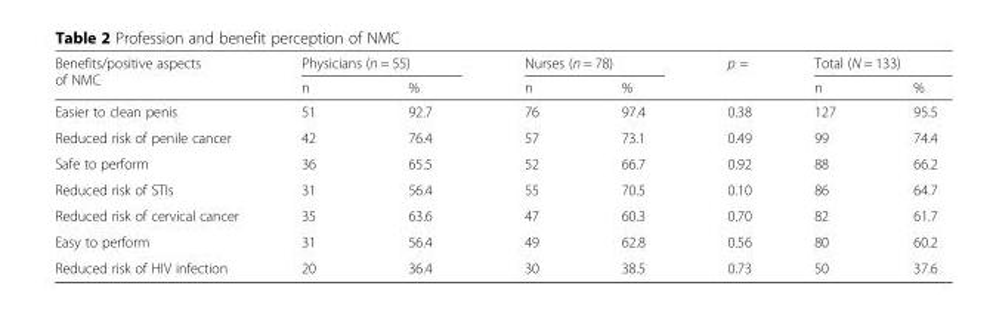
<table><thead><tr><td rowspan="2">Benefits/positive aspects of NMC</td><td colspan="2">Physicians (n = 55)</td><td colspan="2">Nurses (n = 78)</td><td rowspan="2">p =</td><td colspan="2">Total (N = 133)</td></tr><tr><td>n</td><td>%</td><td>n</td><td>%</td><td>n</td><td>%</td></tr></thead><tbody><tr><td>Easier to clean penis</td><td>51</td><td>92.7</td><td>76</td><td>97.4</td><td>0.38</td><td>127</td><td>95.5</td></tr><tr><td>Reduced risk of penile cancer</td><td>42</td><td>76.4</td><td>57</td><td>73.1</td><td>0.49</td><td>99</td><td>74.4</td></tr><tr><td>Safe to perform</td><td>36</td><td>65.5</td><td>52</td><td>66.7</td><td>0.92</td><td>88</td><td>66.2</td></tr><tr><td>Reduced risk of STIs</td><td>31</td><td>56.4</td><td>55</td><td>70.5</td><td>0.10</td><td>86</td><td>64.7</td></tr><tr><td>Reduced risk of cervical cancer</td><td>35</td><td>63.6</td><td>47</td><td>60.3</td><td>0.70</td><td>82</td><td>61.7</td></tr><tr><td>Easy to perform</td><td>31</td><td>56.4</td><td>49</td><td>62.8</td><td>0.56</td><td>80</td><td>60.2</td></tr><tr><td>Reduced risk of HIV infection</td><td>20</td><td>36.4</td><td>30</td><td>38.5</td><td>0.73</td><td>50</td><td>37.6</td></tr></tbody></table>